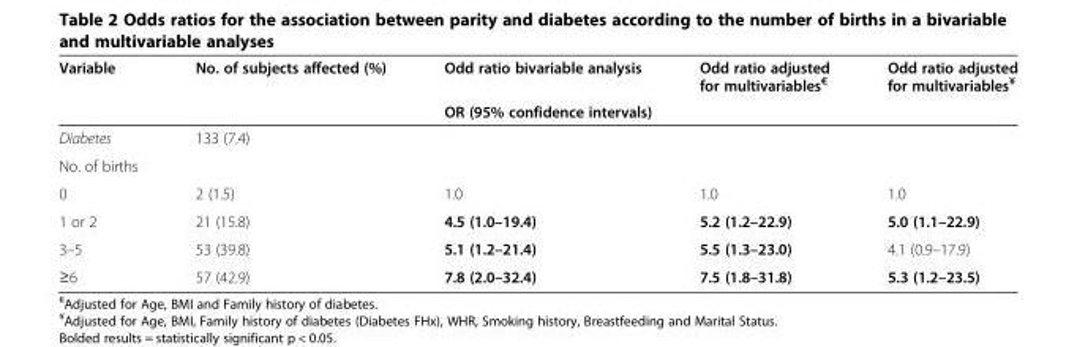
<table><thead><tr><td rowspan="2">Variable</td><td rowspan="2">No. of subjects affected (%)</td><td>Odd ratio bivariable analysis</td><td>Odd ratio adjusted for multivariables<sup>€</sup></td><td>Odd ratio adjusted for multivariables<sup>¥</sup></td></tr><tr><td colspan="3">OR (95% confidence intervals)</td></tr></thead><tbody><tr><td>Diabetes</td><td>133 (7.4)</td><td></td><td colspan="2"></td></tr><tr><td colspan="5">No. of births</td></tr><tr><td>0</td><td>2 (1.5)</td><td>1.0</td><td>1.0</td><td>1.0</td></tr><tr><td>1 or 2</td><td>21 (15.8)</td><td>4.5 (1.0–19.4)</td><td>5.2 (1.2–22.9)</td><td>5.0 (1.1–22.9)</td></tr><tr><td>3–5</td><td>53 (39.8)</td><td>5.1 (1.2–21.4)</td><td>5.5 (1.3–23.0)</td><td>4.1 (0.9–17.9)</td></tr><tr><td>≥6</td><td>57 (42.9)</td><td>7.8 (2.0–32.4)</td><td>7.5 (1.8–31.8)</td><td>5.3 (1.2–23.5)</td></tr></tbody></table>